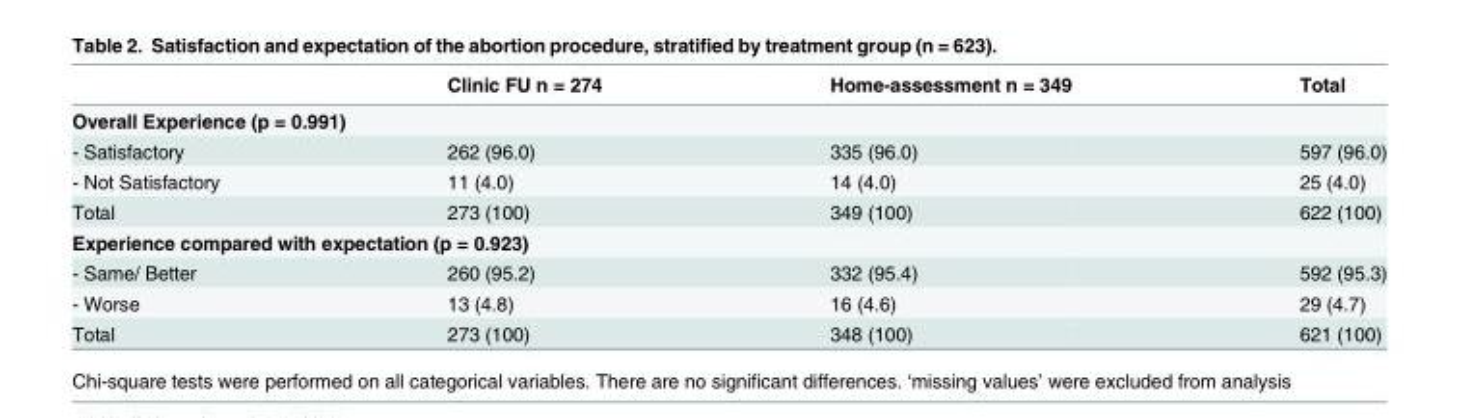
<table><thead><tr><td></td><td>Clinic FU n = 274</td><td>Home-assessment n = 349</td><td>Total</td></tr></thead><tbody><tr><td colspan="4">Overall Experience (p = 0.991)</td></tr><tr><td>- Satisfactory</td><td>262 (96.0)</td><td>335 (96.0)</td><td>597 (96.0)</td></tr><tr><td>- Not Satisfactory</td><td>11 (4.0)</td><td>14 (4.0)</td><td>25 (4.0)</td></tr><tr><td>Total</td><td>273 (100)</td><td>349 (100)</td><td>622 (100)</td></tr><tr><td colspan="4">Experience compared with expectation (p = 0.923)</td></tr><tr><td>- Same/ Better</td><td>260 (95.2)</td><td>332 (95.4)</td><td>592 (95.3)</td></tr><tr><td>- Worse</td><td>13 (4.8)</td><td>16 (4.6)</td><td>29 (4.7)</td></tr><tr><td>Total</td><td>273 (100)</td><td>348 (100)</td><td>621 (100)</td></tr></tbody></table>